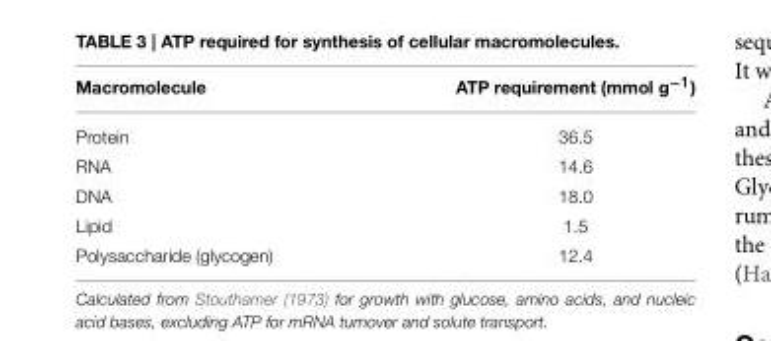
<table><thead><tr><td>Macromolecule</td><td>ATP requirement (mmol g<sup>−1</sup>)</td></tr></thead><tbody><tr><td>Protein</td><td>36.5</td></tr><tr><td>RNA</td><td>14.6</td></tr><tr><td>DNA</td><td>18.0</td></tr><tr><td>Lipid</td><td>1.5</td></tr><tr><td>Polysaccharide (glycogen)</td><td>12.4</td></tr></tbody></table>